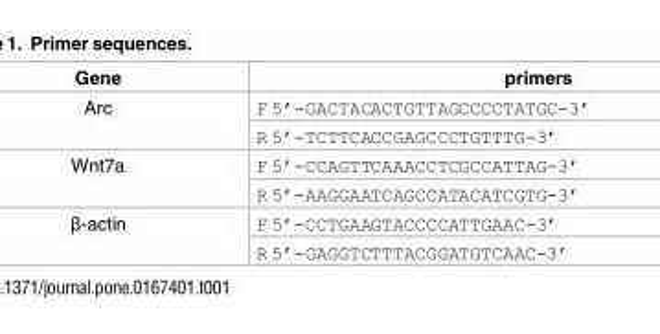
<table><thead><tr><td>Gene</td><td>primers</td></tr></thead><tbody><tr><td rowspan="2">Arc</td><td>F 5’-GACTACACTGTTAGCCCCTATGC-3’</td></tr><tr><td>R 5’-TCTTCACCGAGCCCTGTTTG-3’</td></tr><tr><td rowspan="2">Wnt7a</td><td>F 5’-CCAGTTCAAACCTCGCCATTAG-3’</td></tr><tr><td>R 5’-AAGGAATCAGCCATACATCGTG-3’</td></tr><tr><td rowspan="2">β-actin</td><td>F 5’-CCTGAAGTACCCCATTGAAC-3’</td></tr><tr><td>R 5’-GAGGTCTTTACGGATGTCAAC-3’</td></tr></tbody></table>